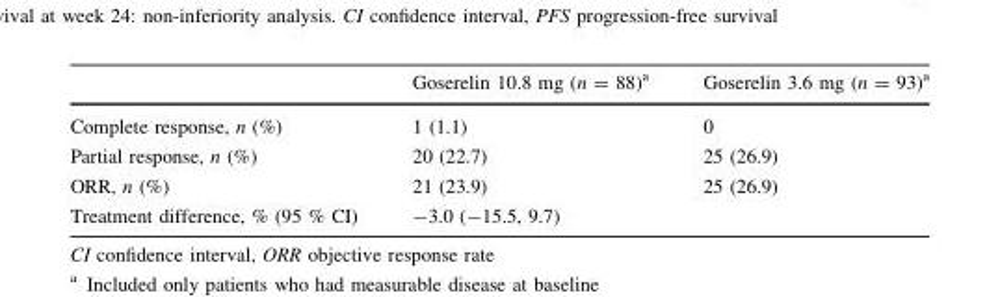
<table><thead><tr><td></td><td>Goserelin 10.8 mg (n = 88)<sup>a</sup></td><td>Goserelin 3.6 mg (n = 93)<sup>a</sup></td></tr></thead><tbody><tr><td>Complete response, n (%)</td><td>1 (1.1)</td><td>0</td></tr><tr><td>Partial response, n (%)</td><td>20 (22.7)</td><td>25 (26.9)</td></tr><tr><td>ORR, n (%)</td><td>21 (23.9)</td><td>25 (26.9)</td></tr><tr><td>Treatment difference, % (95 % CI)</td><td colspan="2">-3.0 (-15.5, 9.7)</td></tr></tbody></table>